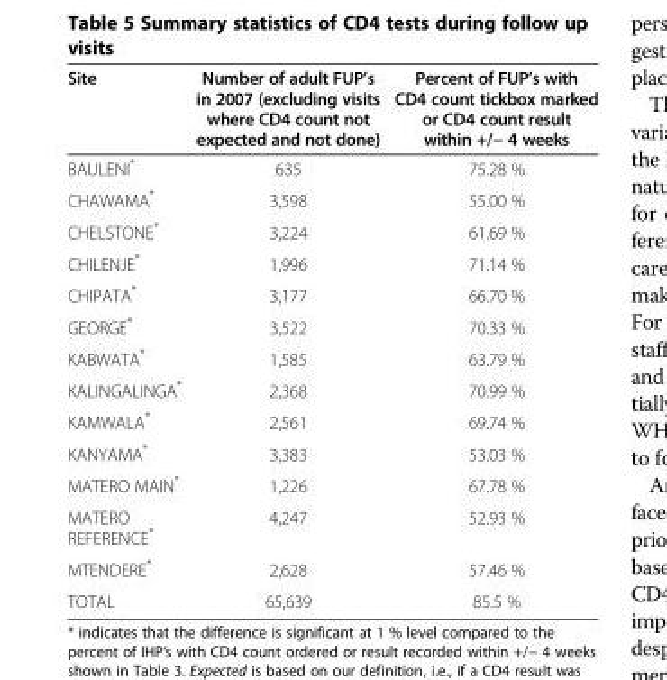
<table><thead><tr><td>Site</td><td>Number of adult FUP’s in 2007 (excluding visits where CD4 count not expected and not done)</td><td>Percent of FUP’s with CD4 count tickbox marked or CD4 count result within +/− 4 weeks</td></tr></thead><tbody><tr><td>BAULENI*</td><td>635</td><td>75.28 %</td></tr><tr><td>CHAWAMA*</td><td>3,598</td><td>55.00 %</td></tr><tr><td>CHELSTONE*</td><td>3,224</td><td>61.69 %</td></tr><tr><td>CHILENJE*</td><td>1,996</td><td>71.14 %</td></tr><tr><td>CHIPATA*</td><td>3,177</td><td>66.70 %</td></tr><tr><td>GEORGE*</td><td>3,522</td><td>70.33 %</td></tr><tr><td>KABWATA*</td><td>1,585</td><td>63.79 %</td></tr><tr><td>KALINGALINGA*</td><td>2,368</td><td>70.99 %</td></tr><tr><td>KAMWALA*</td><td>2,561</td><td>69.74 %</td></tr><tr><td>KANYAMA*</td><td>3,383</td><td>53.03 %</td></tr><tr><td>MATERO MAIN*</td><td>1,226</td><td>67.78 %</td></tr><tr><td>MATERO REFERENCE*</td><td>4,247</td><td>52.93 %</td></tr><tr><td>MTENDERE*</td><td>2,628</td><td>57.46 %</td></tr><tr><td>TOTAL</td><td>65,639</td><td>85.5 %</td></tr></tbody></table>